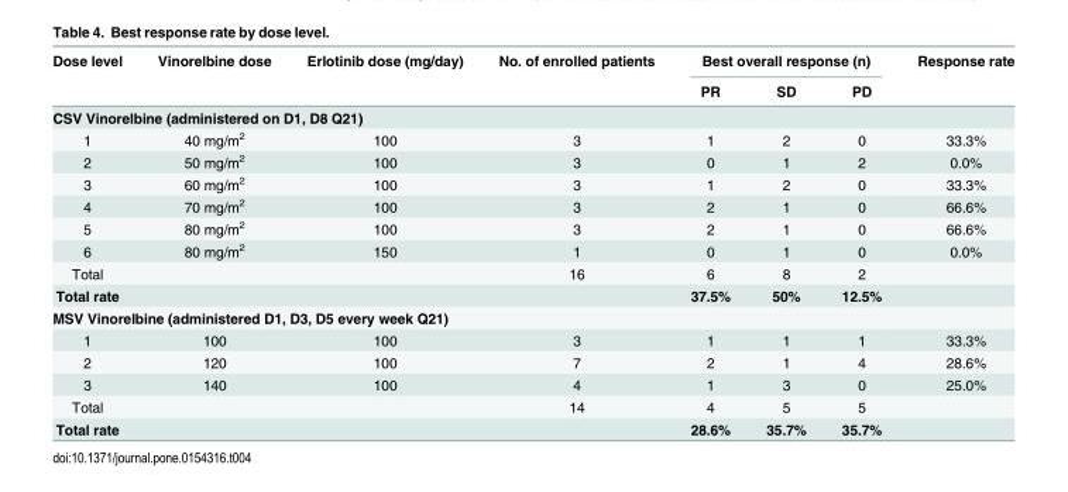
<table><thead><tr><td rowspan="2">Dose level</td><td rowspan="2">Vinorelbine dose</td><td rowspan="2">Erlotinib dose (mg/day)</td><td rowspan="2">No. of enrolled patients</td><td colspan="3">Best overall response (n)</td><td rowspan="2">Response rate</td></tr><tr><td>PR</td><td>SD</td><td>PD</td></tr></thead><tbody><tr><td colspan="8">CSV Vinorelbine (administered on D1, D8 Q21)</td></tr><tr><td>1</td><td>40 mg/m<sup>2</sup></td><td>100</td><td>3</td><td>1</td><td>2</td><td>0</td><td>33.3%</td></tr><tr><td>2</td><td>50 mg/m<sup>2</sup></td><td>100</td><td>3</td><td>0</td><td>1</td><td>2</td><td>0.0%</td></tr><tr><td>3</td><td>60 mg/m<sup>2</sup></td><td>100</td><td>3</td><td>1</td><td>2</td><td>0</td><td>33.3%</td></tr><tr><td>4</td><td>70 mg/m<sup>2</sup></td><td>100</td><td>3</td><td>2</td><td>1</td><td>0</td><td>66.6%</td></tr><tr><td>5</td><td>80 mg/m<sup>2</sup></td><td>100</td><td>3</td><td>2</td><td>1</td><td>0</td><td>66.6%</td></tr><tr><td>6</td><td>80 mg/m<sup>2</sup></td><td>150</td><td>1</td><td>0</td><td>1</td><td>0</td><td>0.0%</td></tr><tr><td>Total</td><td></td><td></td><td>16</td><td>6</td><td>8</td><td>2</td><td></td></tr><tr><td>Total rate</td><td></td><td></td><td></td><td>37.5%</td><td>50%</td><td>12.5%</td><td></td></tr><tr><td colspan="8">MSV Vinorelbine (administered D1, D3, D5 every week Q21)</td></tr><tr><td>1</td><td>100</td><td>100</td><td>3</td><td>1</td><td>1</td><td>1</td><td>33.3%</td></tr><tr><td>2</td><td>120</td><td>100</td><td>7</td><td>2</td><td>1</td><td>4</td><td>28.6%</td></tr><tr><td>3</td><td>140</td><td>100</td><td>4</td><td>1</td><td>3</td><td>0</td><td>25.0%</td></tr><tr><td>Total</td><td></td><td></td><td>14</td><td>4</td><td>5</td><td>5</td><td></td></tr><tr><td>Total rate</td><td></td><td></td><td></td><td>28.6%</td><td>35.7%</td><td>35.7%</td><td></td></tr></tbody></table>